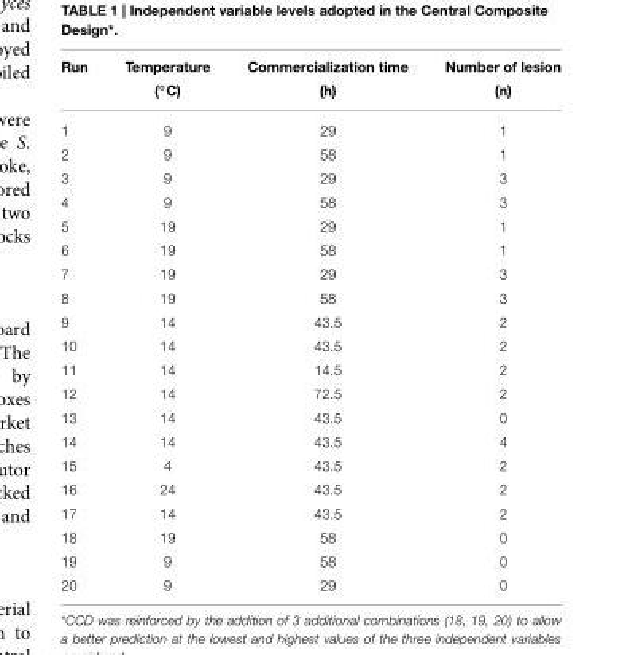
<table><thead><tr><td>Run</td><td>Temperature (◦C)</td><td>Commercialization time (h)</td><td>Number of lesion (n)</td></tr></thead><tbody><tr><td>1</td><td>9</td><td>29</td><td>1</td></tr><tr><td>2</td><td>9</td><td>58</td><td>1</td></tr><tr><td>3</td><td>9</td><td>29</td><td>3</td></tr><tr><td>4</td><td>9</td><td>58</td><td>3</td></tr><tr><td>5</td><td>19</td><td>29</td><td>1</td></tr><tr><td>6</td><td>19</td><td>58</td><td>1</td></tr><tr><td>7</td><td>19</td><td>29</td><td>3</td></tr><tr><td>8</td><td>19</td><td>58</td><td>3</td></tr><tr><td>9</td><td>14</td><td>43.5</td><td>2</td></tr><tr><td>10</td><td>14</td><td>43.5</td><td>2</td></tr><tr><td>11</td><td>14</td><td>14.5</td><td>2</td></tr><tr><td>12</td><td>14</td><td>72.5</td><td>2</td></tr><tr><td>13</td><td>14</td><td>43.5</td><td>0</td></tr><tr><td>14</td><td>14</td><td>43.5</td><td>4</td></tr><tr><td>15</td><td>4</td><td>43.5</td><td>2</td></tr><tr><td>16</td><td>24</td><td>43.5</td><td>2</td></tr><tr><td>17</td><td>14</td><td>43.5</td><td>2</td></tr><tr><td>18</td><td>19</td><td>58</td><td>0</td></tr><tr><td>19</td><td>9</td><td>58</td><td>0</td></tr><tr><td>20</td><td>9</td><td>29</td><td>0</td></tr></tbody></table>